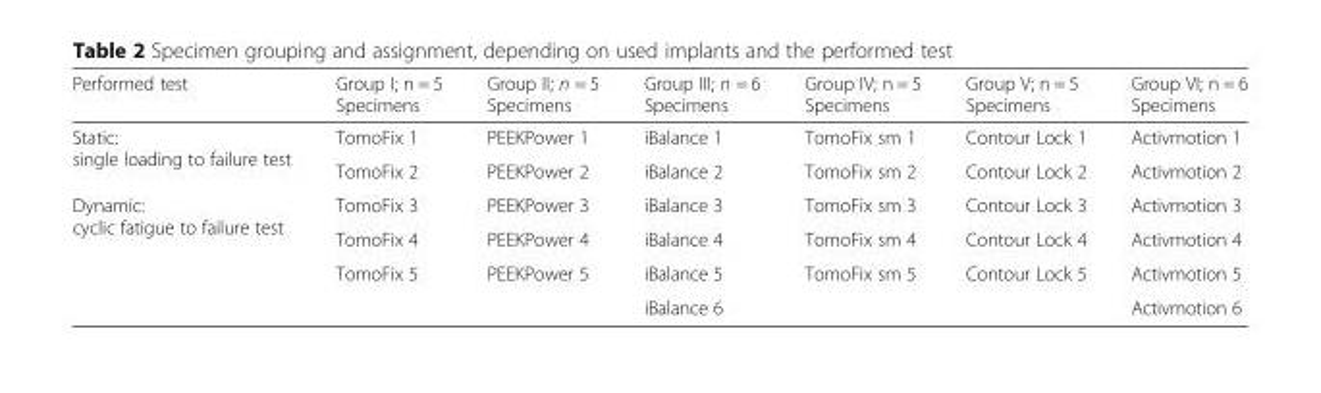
<table><thead><tr><td>Performed test</td><td>Group I; n = 5 Specimens</td><td>Group II; n = 5 Specimens</td><td>Group III; n = 6 Specimens</td><td>Group IV; n = 5 Specimens</td><td>Group V; n = 5 Specimens</td><td>Group VI; n = 6 Specimens</td></tr></thead><tbody><tr><td rowspan="2">Static: single loading to failure test</td><td>TomoFix 1</td><td>PEEKPower 1</td><td>iBalance 1</td><td>TomoFix sm 1</td><td>Contour Lock 1</td><td>Activmotion 1</td></tr><tr><td>TomoFix 2</td><td>PEEKPower 2</td><td>iBalance 2</td><td>TomoFix sm 2</td><td>Contour Lock 2</td><td>Activmotion 2</td></tr><tr><td rowspan="4">Dynamic: cyclic fatigue to failure test</td><td>TomoFix 3</td><td>PEEKPower 3</td><td>iBalance 3</td><td>TomoFix sm 3</td><td>Contour Lock 3</td><td>Activmotion 3</td></tr><tr><td>TomoFix 4</td><td>PEEKPower 4</td><td>iBalance 4</td><td>TomoFix sm 4</td><td>Contour Lock 4</td><td>Activmotion 4</td></tr><tr><td>TomoFix 5</td><td>PEEKPower 5</td><td>iBalance 5</td><td>TomoFix sm 5</td><td>Contour Lock 5</td><td>Activmotion 5</td></tr><tr><td></td><td></td><td>iBalance 6</td><td></td><td></td><td>Activmotion 6</td></tr></tbody></table>